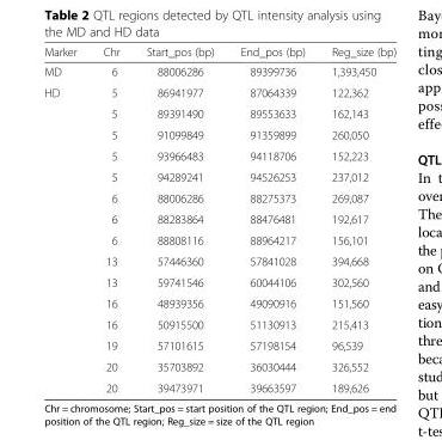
<table><thead><tr><td>Marker</td><td>Chr</td><td>Start_pos (bp)</td><td>End_pos (bp)</td><td>Reg_size (bp)</td></tr></thead><tbody><tr><td>MD</td><td>6</td><td>88006286</td><td>89399736</td><td>1,393,450</td></tr><tr><td rowspan="15">HD</td><td>5</td><td>86941977</td><td>87064339</td><td>122,362</td></tr><tr><td>5</td><td>89391490</td><td>89553633</td><td>162,143</td></tr><tr><td>5</td><td>91099849</td><td>91359899</td><td>260,050</td></tr><tr><td>5</td><td>93966483</td><td>94118706</td><td>152,223</td></tr><tr><td>5</td><td>94289241</td><td>94526253</td><td>237,012</td></tr><tr><td>6</td><td>88006286</td><td>88275373</td><td>269,087</td></tr><tr><td>6</td><td>88283864</td><td>88476481</td><td>192,617</td></tr><tr><td>6</td><td>88808116</td><td>88964217</td><td>156,101</td></tr><tr><td>13</td><td>57446360</td><td>57841028</td><td>394,668</td></tr><tr><td>13</td><td>59741546</td><td>60044106</td><td>302,560</td></tr><tr><td>16</td><td>48939356</td><td>49090916</td><td>151,560</td></tr><tr><td>16</td><td>50915500</td><td>51130913</td><td>215,413</td></tr><tr><td>19</td><td>57101615</td><td>57198154</td><td>96,539</td></tr><tr><td>20</td><td>35703892</td><td>36030444</td><td>326,552</td></tr><tr><td>20</td><td>39473971</td><td>39663597</td><td>189,626</td></tr></tbody></table>